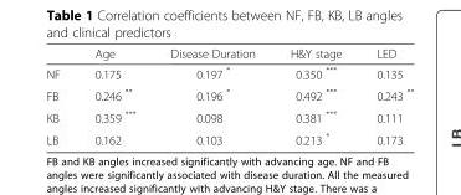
<table><thead><tr><td></td><td>Age</td><td>Disease Duration</td><td>H&amp;Y stage</td><td>LED</td></tr></thead><tbody><tr><td>NF</td><td>0.175</td><td>0.197 *</td><td>0.350 ***</td><td>0.135</td></tr><tr><td>FB</td><td>0.246 **</td><td>0.196 *</td><td>0.492 ***</td><td>0.243 **</td></tr><tr><td>KB</td><td>0.359 ***</td><td>0.098</td><td>0.381 ***</td><td>0.111</td></tr><tr><td>LB</td><td>0.162</td><td>0.103</td><td>0.213 *</td><td>0.173</td></tr></tbody></table>